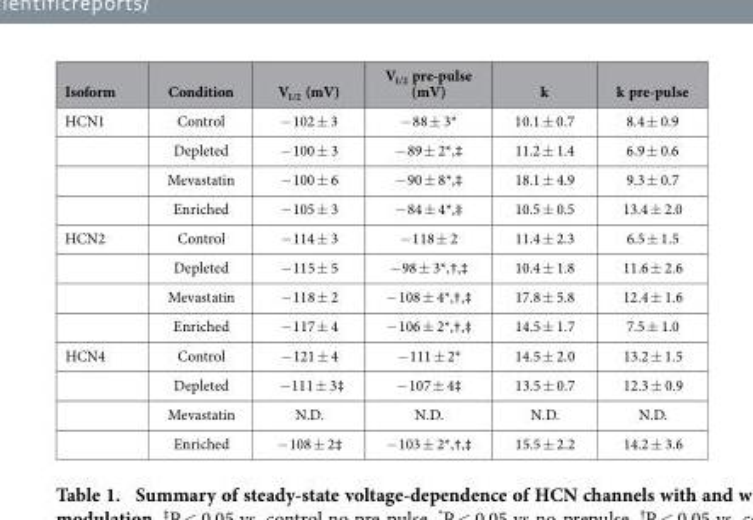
<table><thead><tr><td>Isoform</td><td>Condition</td><td>V<sub>1/2</sub> (mV)</td><td>V<sub>1/2</sub> pre-pulse (mV)</td><td>k</td><td>k pre-pulse</td></tr></thead><tbody><tr><td rowspan="4">HCN1</td><td>Control</td><td>− 102 ± 3</td><td>− 88 ± 3*</td><td>10.1 ± 0.7</td><td>8.4 ± 0.9</td></tr><tr><td>Depleted</td><td>− 100 ± 3</td><td>− 89 ± 2*,‡</td><td>11.2 ± 1.4</td><td>6.9 ± 0.6</td></tr><tr><td>Mevastatin</td><td>− 100 ± 6</td><td>− 90 ± 8*,‡</td><td>18.1 ± 4.9</td><td>9.3 ± 0.7</td></tr><tr><td>Enriched</td><td>− 105 ± 3</td><td>− 84 ± 4*,‡</td><td>10.5 ± 0.5</td><td>13.4 ± 2.0</td></tr><tr><td rowspan="4">HCN2</td><td>Control</td><td>− 114 ± 3</td><td>− 118 ± 2</td><td>11.4 ± 2.3</td><td>6.5 ± 1.5</td></tr><tr><td>Depleted</td><td>− 115 ± 5</td><td>− 98 ± 3*,†,‡</td><td>10.4 ± 1.8</td><td>11.6 ± 2.6</td></tr><tr><td>Mevastatin</td><td>− 118 ± 2</td><td>− 108 ± 4*,†,‡</td><td>17.8 ± 5.8</td><td>12.4 ± 1.6</td></tr><tr><td>Enriched</td><td>− 117 ± 4</td><td>− 106 ± 2*,†,‡</td><td>14.5 ± 1.7</td><td>7.5 ± 1.0</td></tr><tr><td rowspan="4">HCN4</td><td>Control</td><td>− 121 ± 4</td><td>− 111 ± 2*</td><td>14.5 ± 2.0</td><td>13.2 ± 1.5</td></tr><tr><td>Depleted</td><td>− 111 ± 3‡</td><td>− 107 ± 4‡</td><td>13.5 ± 0.7</td><td>12.3 ± 0.9</td></tr><tr><td>Mevastatin</td><td>N.D.</td><td>N.D.</td><td>N.D.</td><td>N.D.</td></tr><tr><td>Enriched</td><td>− 108 ± 2‡</td><td>− 103 ± 2*,†,‡</td><td>15.5 ± 2.2</td><td>14.2 ± 3.6</td></tr></tbody></table>